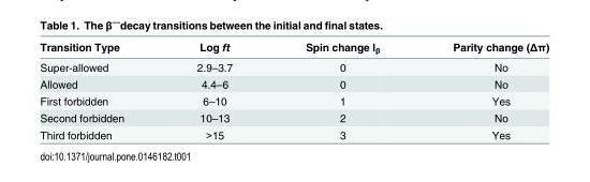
<table><thead><tr><td>Transition Type</td><td>Log ft</td><td>Spin change l<sub>β</sub></td><td>Parity change (Δπ)</td></tr></thead><tbody><tr><td>Super-allowed</td><td>2.9–3.7</td><td>0</td><td>No</td></tr><tr><td>Allowed</td><td>4.4–6</td><td>0</td><td>No</td></tr><tr><td>First forbidden</td><td>6–10</td><td>1</td><td>Yes</td></tr><tr><td>Second forbidden</td><td>10–13</td><td>2</td><td>No</td></tr><tr><td>Third forbidden</td><td>&gt;15</td><td>3</td><td>Yes</td></tr></tbody></table>